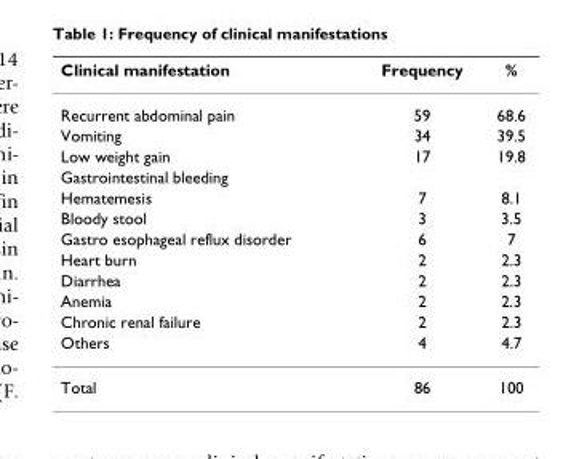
<table><thead><tr><td>Clinical manifestation</td><td>Frequency</td><td>%</td></tr></thead><tbody><tr><td>Recurrent abdominal pain</td><td>59</td><td>68.6</td></tr><tr><td>Vomiting</td><td>34</td><td>39.5</td></tr><tr><td>Low weight gain</td><td>17</td><td>19.8</td></tr><tr><td colspan="3">Gastrointestinal bleeding</td></tr><tr><td>Hematemesis</td><td>7</td><td>8.1</td></tr><tr><td>Bloody stool</td><td>3</td><td>3.5</td></tr><tr><td>Gastro esophageal reflux disorder</td><td>6</td><td>7</td></tr><tr><td>Heart burn</td><td>2</td><td>2.3</td></tr><tr><td>Diarrhea</td><td>2</td><td>2.3</td></tr><tr><td>Anemia</td><td>2</td><td>2.3</td></tr><tr><td>Chronic renal failure</td><td>2</td><td>2.3</td></tr><tr><td>Others</td><td>4</td><td>4.7</td></tr><tr><td>Total</td><td>86</td><td>100</td></tr></tbody></table>